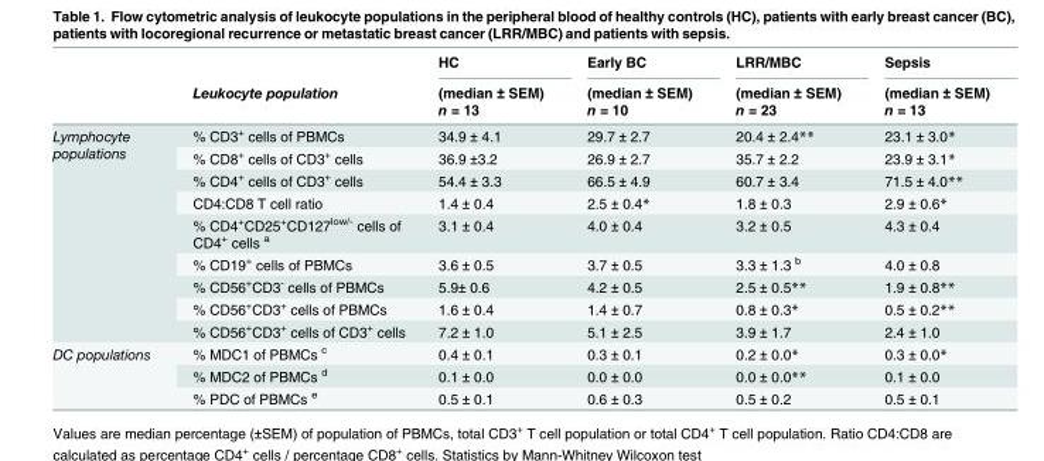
<table><thead><tr><td rowspan="2"></td><td rowspan="2">Leukocyte population</td><td rowspan="2">HC (median ± SEM) n = 13</td><td rowspan="2">Early BC (median ± SEM) n = 10</td><td rowspan="2">LRR/MBC (median ± SEM) n = 23</td><td rowspan="2">Sepsis (median ± SEM) n = 13</td></tr><tr></tr></thead><tbody><tr><td rowspan="9">Lymphocyte populations</td><td>% CD3<sup>+</sup> cells of PBMCs</td><td>34.9 ± 4.1</td><td>29.7 ± 2.7</td><td>20.4 ± 2.4**</td><td>23.1 ± 3.0*</td></tr><tr><td>% CD8<sup>+</sup> cells of CD3<sup>+</sup> cells</td><td>36.9 ±3.2</td><td>26.9 ± 2.7</td><td>35.7 ± 2.2</td><td>23.9 ± 3.1*</td></tr><tr><td>% CD4<sup>+</sup> cells of CD3<sup>+</sup> cells</td><td>54.4 ± 3.3</td><td>66.5 ± 4.9</td><td>60.7 ± 3.4</td><td>71.5 ± 4.0**</td></tr><tr><td>CD4:CD8 T cell ratio</td><td>1.4 ± 0.4</td><td>2.5 ± 0.4*</td><td>1.8 ± 0.3</td><td>2.9 ± 0.6*</td></tr><tr><td>% CD4<sup>+</sup>CD25<sup>+</sup>CD127<sup>low/-</sup> cells of CD4<sup>+</sup> cells <sup>a</sup></td><td>3.1 ± 0.4</td><td>4.0 ± 0.4</td><td>3.2 ± 0.5</td><td>4.3 ± 0.4</td></tr><tr><td>% CD19<sup>+</sup> cells of PBMCs</td><td>3.6 ± 0.5</td><td>3.7 ± 0.5</td><td>3.3 ± 1.3 <sup>b</sup></td><td>4.0 ± 0.8</td></tr><tr><td>% CD56<sup>+</sup>CD3<sup>-</sup> cells of PBMCs</td><td>5.9± 0.6</td><td>4.2 ± 0.5</td><td>2.5 ± 0.5**</td><td>1.9 ± 0.8**</td></tr><tr><td>% CD56<sup>+</sup>CD3<sup>+</sup> cells of PBMCs</td><td>1.6 ± 0.4</td><td>1.4 ± 0.7</td><td>0.8 ± 0.3*</td><td>0.5 ± 0.2**</td></tr><tr><td>% CD56<sup>+</sup>CD3<sup>+</sup> cells of CD3<sup>+</sup> cells</td><td>7.2 ± 1.0</td><td>5.1 ± 2.5</td><td>3.9 ± 1.7</td><td>2.4 ± 1.0</td></tr><tr><td rowspan="3">DC populations</td><td>% MDC1 of PBMCs <sup>c</sup></td><td>0.4 ± 0.1</td><td>0.3 ± 0.1</td><td>0.2 ± 0.0*</td><td>0.3 ± 0.0*</td></tr><tr><td>% MDC2 of PBMCs <sup>d</sup></td><td>0.1 ± 0.0</td><td>0.0 ± 0.0</td><td>0.0 ± 0.0**</td><td>0.1 ± 0.0</td></tr><tr><td>% PDC of PBMCs <sup>e</sup></td><td>0.5 ± 0.1</td><td>0.6 ± 0.3</td><td>0.5 ± 0.2</td><td>0.5 ± 0.1</td></tr></tbody></table>